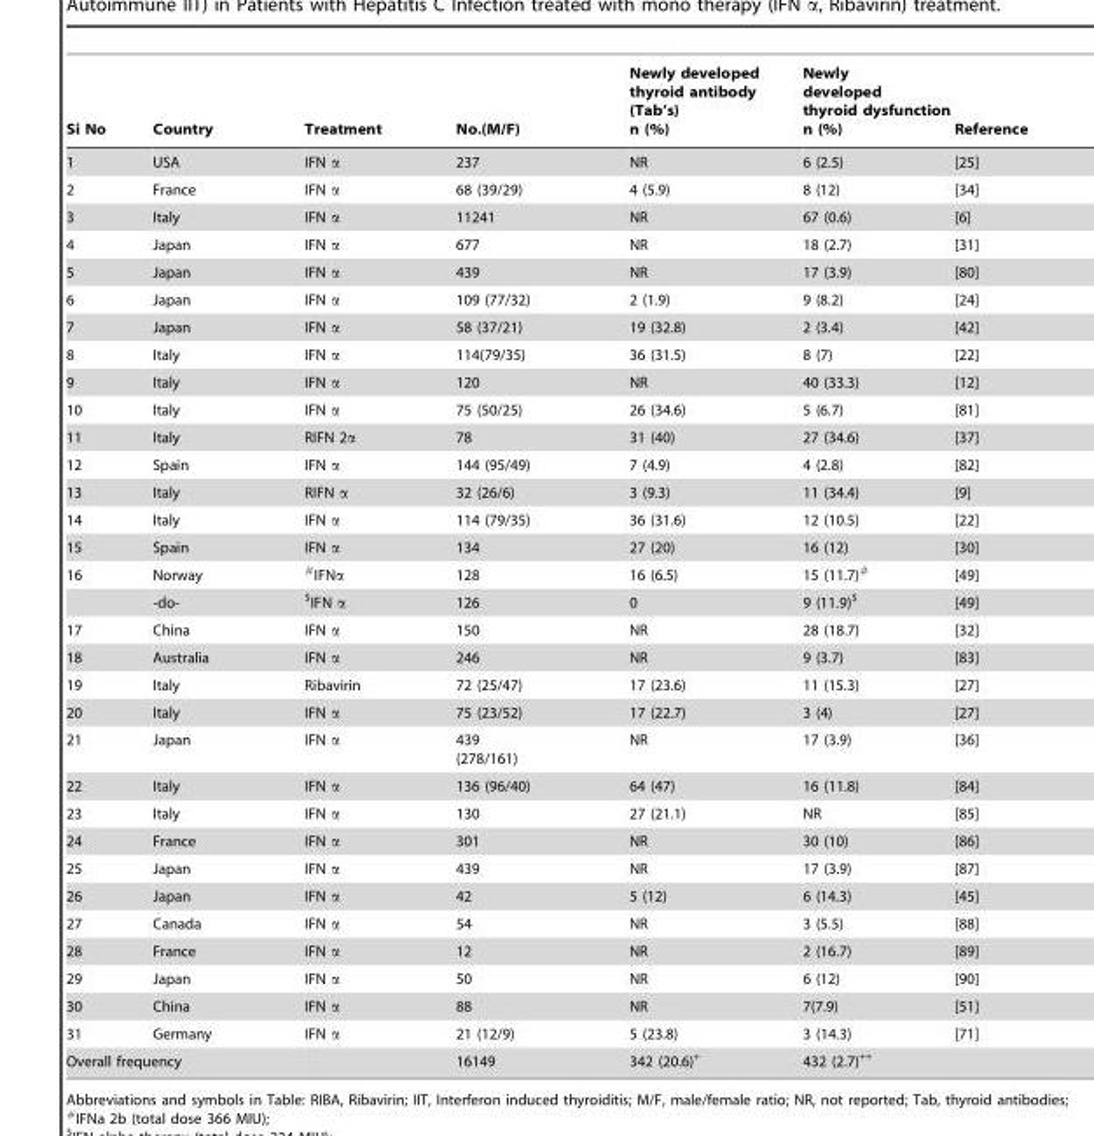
<table><thead><tr><td>Si No</td><td>Country</td><td>Treatment</td><td>No.(M/F)</td><td>Newly developed thyroid antibody (Tab’s) n (%)</td><td>Newly developed thyroid dysfunction n (%)</td><td>Reference</td></tr></thead><tbody><tr><td>1</td><td>USA</td><td>IFN α</td><td>237</td><td>NR</td><td>6 (2.5)</td><td>[25]</td></tr><tr><td>2</td><td>France</td><td>IFN α</td><td>68 (39/29)</td><td>4 (5.9)</td><td>8 (12)</td><td>[34]</td></tr><tr><td>3</td><td>Italy</td><td>IFN α</td><td>11241</td><td>NR</td><td>67 (0.6)</td><td>[6]</td></tr><tr><td>4</td><td>Japan</td><td>IFN α</td><td>677</td><td>NR</td><td>18 (2.7)</td><td>[31]</td></tr><tr><td>5</td><td>Japan</td><td>IFN α</td><td>439</td><td>NR</td><td>17 (3.9)</td><td>[80]</td></tr><tr><td>6</td><td>Japan</td><td>IFN α</td><td>109 (77/32)</td><td>2 (1.9)</td><td>9 (8.2)</td><td>[24]</td></tr><tr><td>7</td><td>Japan</td><td>IFN α</td><td>58 (37/21)</td><td>19 (32.8)</td><td>2 (3.4)</td><td>[42]</td></tr><tr><td>8</td><td>Italy</td><td>IFN α</td><td>114(79/35)</td><td>36 (31.5)</td><td>8 (7)</td><td>[22]</td></tr><tr><td>9</td><td>Italy</td><td>IFN α</td><td>120</td><td>NR</td><td>40 (33.3)</td><td>[12]</td></tr><tr><td>10</td><td>Italy</td><td>IFN α</td><td>75 (50/25)</td><td>26 (34.6)</td><td>5 (6.7)</td><td>[81]</td></tr><tr><td>11</td><td>Italy</td><td>RIFN 2α</td><td>78</td><td>31 (40)</td><td>27 (34.6)</td><td>[37]</td></tr><tr><td>12</td><td>Spain</td><td>IFN α</td><td>144 (95/49)</td><td>7 (4.9)</td><td>4 (2.8)</td><td>[82]</td></tr><tr><td>13</td><td>Italy</td><td>RIFN α</td><td>32 (26/6)</td><td>3 (9.3)</td><td>11 (34.4)</td><td>[9]</td></tr><tr><td>14</td><td>Italy</td><td>IFN α</td><td>114 (79/35)</td><td>36 (31.6)</td><td>12 (10.5)</td><td>[22]</td></tr><tr><td>15</td><td>Spain</td><td>IFN α</td><td>134</td><td>27 (20)</td><td>16 (12)</td><td>[30]</td></tr><tr><td rowspan="2">16</td><td>Norway</td><td>#IFNα</td><td>128</td><td>16 (6.5)</td><td>15 (11.7)#</td><td>[49]</td></tr><tr><td>-do-</td><td>$IFN α</td><td>126</td><td>0</td><td>9 (11.9)$</td><td>[49]</td></tr><tr><td>17</td><td>China</td><td>IFN α</td><td>150</td><td>NR</td><td>28 (18.7)</td><td>[32]</td></tr><tr><td>18</td><td>Australia</td><td>IFN α</td><td>246</td><td>NR</td><td>9 (3.7)</td><td>[83]</td></tr><tr><td>19</td><td>Italy</td><td>Ribavirin</td><td>72 (25/47)</td><td>17 (23.6)</td><td>11 (15.3)</td><td>[27]</td></tr><tr><td>20</td><td>Italy</td><td>IFN α</td><td>75 (23/52)</td><td>17 (22.7)</td><td>3 (4)</td><td>[27]</td></tr><tr><td>21</td><td>Japan</td><td>IFN α</td><td>439 (278/161)</td><td>NR</td><td>17 (3.9)</td><td>[36]</td></tr><tr><td>22</td><td>Italy</td><td>IFN α</td><td>136 (96/40)</td><td>64 (47)</td><td>16 (11.8)</td><td>[84]</td></tr><tr><td>23</td><td>Italy</td><td>IFN α</td><td>130</td><td>27 (21.1)</td><td>NR</td><td>[85]</td></tr><tr><td>24</td><td>France</td><td>IFN α</td><td>301</td><td>NR</td><td>30 (10)</td><td>[86]</td></tr><tr><td>25</td><td>Japan</td><td>IFN α</td><td>439</td><td>NR</td><td>17 (3.9)</td><td>[87]</td></tr><tr><td>26</td><td>Japan</td><td>IFN α</td><td>42</td><td>5 (12)</td><td>6 (14.3)</td><td>[45]</td></tr><tr><td>27</td><td>Canada</td><td>IFN α</td><td>54</td><td>NR</td><td>3 (5.5)</td><td>[88]</td></tr><tr><td>28</td><td>France</td><td>IFN α</td><td>12</td><td>NR</td><td>2 (16.7)</td><td>[89]</td></tr><tr><td>29</td><td>Japan</td><td>IFN α</td><td>50</td><td>NR</td><td>6 (12)</td><td>[90]</td></tr><tr><td>30</td><td>China</td><td>IFN α</td><td>88</td><td>NR</td><td>7(7.9)</td><td>[51]</td></tr><tr><td>31</td><td>Germany</td><td>IFN α</td><td>21 (12/9)</td><td>5 (23.8)</td><td>3 (14.3)</td><td>[71]</td></tr><tr><td colspan="2">Overall frequency</td><td></td><td>16149</td><td>342 (20.6)+</td><td>432 (2.7)++</td><td></td></tr></tbody></table>